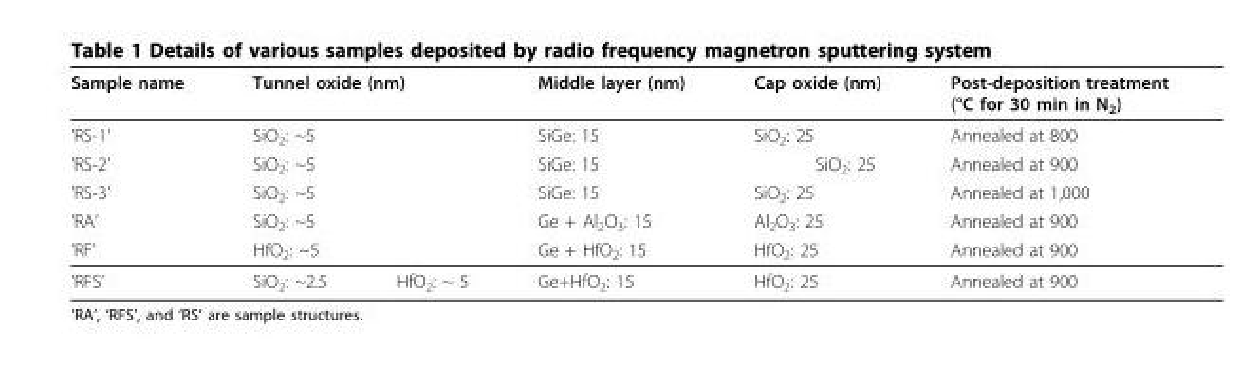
<table><thead><tr><td>Sample name</td><td colspan="2">Tunnel oxide (nm)</td><td>Middle layer (nm)</td><td>Cap oxide (nm)</td><td>Post-deposition treatment (°C for 30 min in N<sub>2</sub>)</td></tr></thead><tbody><tr><td>’RS-1’</td><td colspan="2">SiO<sub>2</sub>: ~5</td><td>SiGe: 15</td><td>SiO<sub>2</sub>: 25</td><td>Annealed at 800</td></tr><tr><td>’RS-2’</td><td colspan="2">SiO<sub>2</sub>: ~5</td><td>SiGe: 15</td><td>SiO<sub>2</sub>: 25</td><td>Annealed at 900</td></tr><tr><td>’RS-3’</td><td colspan="2">SiO<sub>2</sub>: ~5</td><td>SiGe: 15</td><td>SiO<sub>2</sub>: 25</td><td>Annealed at 1,000</td></tr><tr><td>’RA’</td><td colspan="2">SiO<sub>2</sub>: ~5</td><td>Ge + Al<sub>2</sub>O<sub>3</sub>: 15</td><td>Al<sub>2</sub>O<sub>3</sub>: 25</td><td>Annealed at 900</td></tr><tr><td>’RF’</td><td colspan="2">HfO<sub>2</sub>: ~5</td><td>Ge + HfO<sub>2</sub>: 15</td><td>HfO<sub>2</sub>: 25</td><td>Annealed at 900</td></tr><tr><td>’RFS’</td><td>SiO<sub>2</sub>: ~2.5</td><td>HfO<sub>2</sub>: ~ 5</td><td>Ge+HfO<sub>2</sub>: 15</td><td>HfO<sub>2</sub>: 25</td><td>Annealed at 900</td></tr></tbody></table>